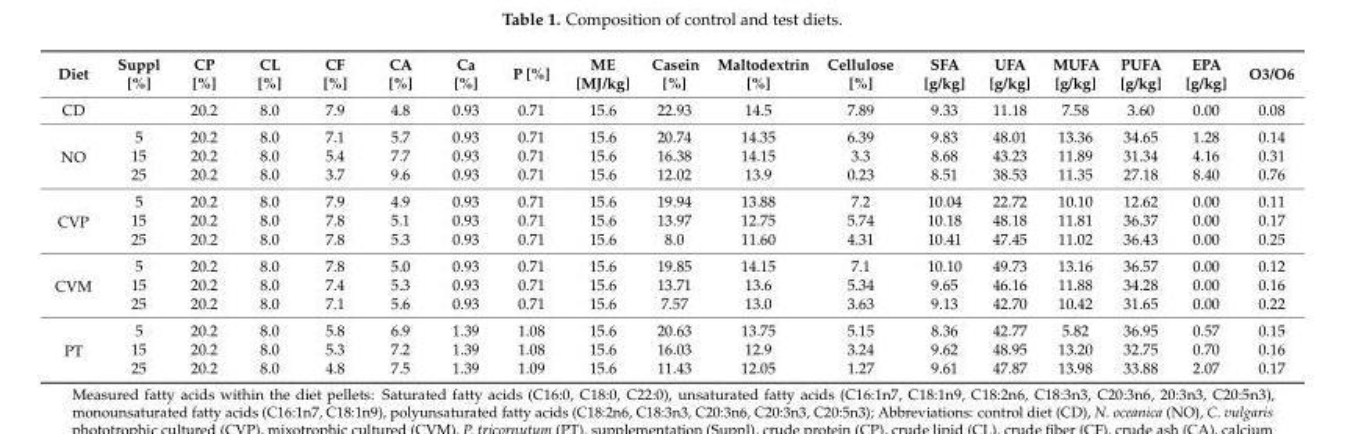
<table><thead><tr><td>Diet</td><td>Suppl [%]</td><td>CP [%]</td><td>CL [%]</td><td>CF [%]</td><td>CA [%]</td><td>Ca [%]</td><td>P [%]</td><td>ME [MJ/kg]</td><td>Casein [%]</td><td>Maltodextrin [%]</td><td>Cellulose [%]</td><td>SFA [g/kg]</td><td>UFA [g/kg]</td><td>MUFA [g/kg]</td><td>PUFA [g/kg]</td><td>EPA [g/kg]</td><td>O3/O6</td></tr></thead><tbody><tr><td>CD</td><td></td><td>20.2</td><td>8.0</td><td>7.9</td><td>4.8</td><td>0.93</td><td>0.71</td><td>15.6</td><td>22.93</td><td>14.5</td><td>7.89</td><td>9.33</td><td>11.18</td><td>7.58</td><td>3.60</td><td>0.00</td><td>0.08</td></tr><tr><td rowspan="3">NO</td><td>5</td><td>20.2</td><td>8.0</td><td>7.1</td><td>5.7</td><td>0.93</td><td>0.71</td><td>15.6</td><td>20.74</td><td>14.35</td><td>6.39</td><td>9.83</td><td>48.01</td><td>13.36</td><td>34.65</td><td>1.28</td><td>0.14</td></tr><tr><td>15</td><td>20.2</td><td>8.0</td><td>5.4</td><td>7.7</td><td>0.93</td><td>0.71</td><td>15.6</td><td>16.38</td><td>14.15</td><td>3.3</td><td>8.68</td><td>43.23</td><td>11.89</td><td>31.34</td><td>4.16</td><td>0.31</td></tr><tr><td>25</td><td>20.2</td><td>8.0</td><td>3.7</td><td>9.6</td><td>0.93</td><td>0.71</td><td>15.6</td><td>12.02</td><td>13.9</td><td>0.23</td><td>8.51</td><td>38.53</td><td>11.35</td><td>27.18</td><td>8.40</td><td>0.76</td></tr><tr><td rowspan="3">CVP</td><td>5</td><td>20.2</td><td>8.0</td><td>7.9</td><td>4.9</td><td>0.93</td><td>0.71</td><td>15.6</td><td>19.94</td><td>13.88</td><td>7.2</td><td>10.04</td><td>22.72</td><td>10.10</td><td>12.62</td><td>0.00</td><td>0.11</td></tr><tr><td>15</td><td>20.2</td><td>8.0</td><td>7.8</td><td>5.1</td><td>0.93</td><td>0.71</td><td>15.6</td><td>13.97</td><td>12.75</td><td>5.74</td><td>10.18</td><td>48.18</td><td>11.81</td><td>36.37</td><td>0.00</td><td>0.17</td></tr><tr><td>25</td><td>20.2</td><td>8.0</td><td>7.8</td><td>5.3</td><td>0.93</td><td>0.71</td><td>15.6</td><td>8.0</td><td>11.60</td><td>4.31</td><td>10.41</td><td>47.45</td><td>11.02</td><td>36.43</td><td>0.00</td><td>0.25</td></tr><tr><td rowspan="3">CVM</td><td>5</td><td>20.2</td><td>8.0</td><td>7.8</td><td>5.0</td><td>0.93</td><td>0.71</td><td>15.6</td><td>19.85</td><td>14.15</td><td>7.1</td><td>10.10</td><td>49.73</td><td>13.16</td><td>36.57</td><td>0.00</td><td>0.12</td></tr><tr><td>15</td><td>20.2</td><td>8.0</td><td>7.4</td><td>5.3</td><td>0.93</td><td>0.71</td><td>15.6</td><td>13.71</td><td>13.6</td><td>5.34</td><td>9.65</td><td>46.16</td><td>11.88</td><td>34.28</td><td>0.00</td><td>0.16</td></tr><tr><td>25</td><td>20.2</td><td>8.0</td><td>7.1</td><td>5.6</td><td>0.93</td><td>0.71</td><td>15.6</td><td>7.57</td><td>13.0</td><td>3.63</td><td>9.13</td><td>42.70</td><td>10.42</td><td>31.65</td><td>0.00</td><td>0.22</td></tr><tr><td rowspan="3">PT</td><td>5</td><td>20.2</td><td>8.0</td><td>5.8</td><td>6.9</td><td>1.39</td><td>1.08</td><td>15.6</td><td>20.63</td><td>13.75</td><td>5.15</td><td>8.36</td><td>42.77</td><td>5.82</td><td>36.95</td><td>0.57</td><td>0.15</td></tr><tr><td>15</td><td>20.2</td><td>8.0</td><td>5.3</td><td>7.2</td><td>1.39</td><td>1.08</td><td>15.6</td><td>16.03</td><td>12.9</td><td>3.24</td><td>9.62</td><td>48.95</td><td>13.20</td><td>32.75</td><td>0.70</td><td>0.16</td></tr><tr><td>25</td><td>20.2</td><td>8.0</td><td>4.8</td><td>7.5</td><td>1.39</td><td>1.09</td><td>15.6</td><td>11.43</td><td>12.05</td><td>1.27</td><td>9.61</td><td>47.87</td><td>13.98</td><td>33.88</td><td>2.07</td><td>0.17</td></tr></tbody></table>